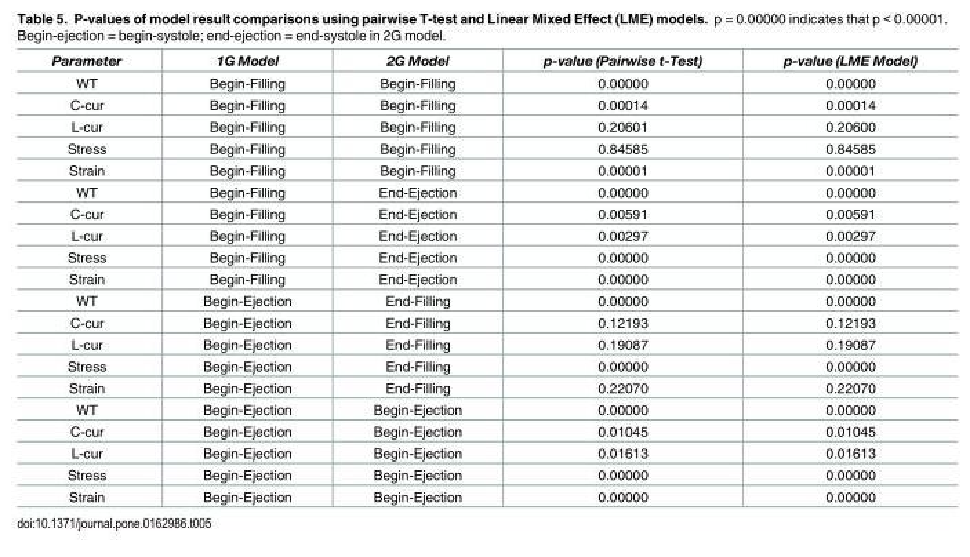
<table><thead><tr><td>Parameter</td><td>1G Model</td><td>2G Model</td><td>p-value (Pairwise t-Test)</td><td>p-value (LME Model)</td></tr></thead><tbody><tr><td>WT</td><td>Begin-Filling</td><td>Begin-Filling</td><td>0.00000</td><td>0.00000</td></tr><tr><td>C-cur</td><td>Begin-Filling</td><td>Begin-Filling</td><td>0.00014</td><td>0.00014</td></tr><tr><td>L-cur</td><td>Begin-Filling</td><td>Begin-Filling</td><td>0.20601</td><td>0.20600</td></tr><tr><td>Stress</td><td>Begin-Filling</td><td>Begin-Filling</td><td>0.84585</td><td>0.84585</td></tr><tr><td>Strain</td><td>Begin-Filling</td><td>Begin-Filling</td><td>0.00001</td><td>0.00001</td></tr><tr><td>WT</td><td>Begin-Filling</td><td>End-Ejection</td><td>0.00000</td><td>0.00000</td></tr><tr><td>C-cur</td><td>Begin-Filling</td><td>End-Ejection</td><td>0.00591</td><td>0.00591</td></tr><tr><td>L-cur</td><td>Begin-Filling</td><td>End-Ejection</td><td>0.00297</td><td>0.00297</td></tr><tr><td>Stress</td><td>Begin-Filling</td><td>End-Ejection</td><td>0.00000</td><td>0.00000</td></tr><tr><td>Strain</td><td>Begin-Filling</td><td>End-Ejection</td><td>0.00000</td><td>0.00000</td></tr><tr><td>WT</td><td>Begin-Ejection</td><td>End-Filling</td><td>0.00000</td><td>0.00000</td></tr><tr><td>C-cur</td><td>Begin-Ejection</td><td>End-Filling</td><td>0.12193</td><td>0.12193</td></tr><tr><td>L-cur</td><td>Begin-Ejection</td><td>End-Filling</td><td>0.19087</td><td>0.19087</td></tr><tr><td>Stress</td><td>Begin-Ejection</td><td>End-Filling</td><td>0.00000</td><td>0.00000</td></tr><tr><td>Strain</td><td>Begin-Ejection</td><td>End-Filling</td><td>0.22070</td><td>0.22070</td></tr><tr><td>WT</td><td>Begin-Ejection</td><td>Begin-Ejection</td><td>0.00000</td><td>0.00000</td></tr><tr><td>C-cur</td><td>Begin-Ejection</td><td>Begin-Ejection</td><td>0.01045</td><td>0.01045</td></tr><tr><td>L-cur</td><td>Begin-Ejection</td><td>Begin-Ejection</td><td>0.01613</td><td>0.01613</td></tr><tr><td>Stress</td><td>Begin-Ejection</td><td>Begin-Ejection</td><td>0.00000</td><td>0.00000</td></tr><tr><td>Strain</td><td>Begin-Ejection</td><td>Begin-Ejection</td><td>0.00000</td><td>0.00000</td></tr></tbody></table>